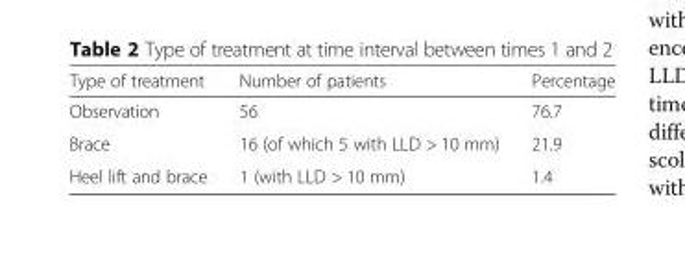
<table><thead><tr><td>Type of treatment</td><td>Number of patients</td><td>Percentage</td></tr></thead><tbody><tr><td>Observation</td><td>56</td><td>76.7</td></tr><tr><td>Brace</td><td>16 (of which 5 with LLD &gt; 10 mm)</td><td>21.9</td></tr><tr><td>Heel lift and brace</td><td>1 (with LLD &gt; 10 mm)</td><td>1.4</td></tr></tbody></table>